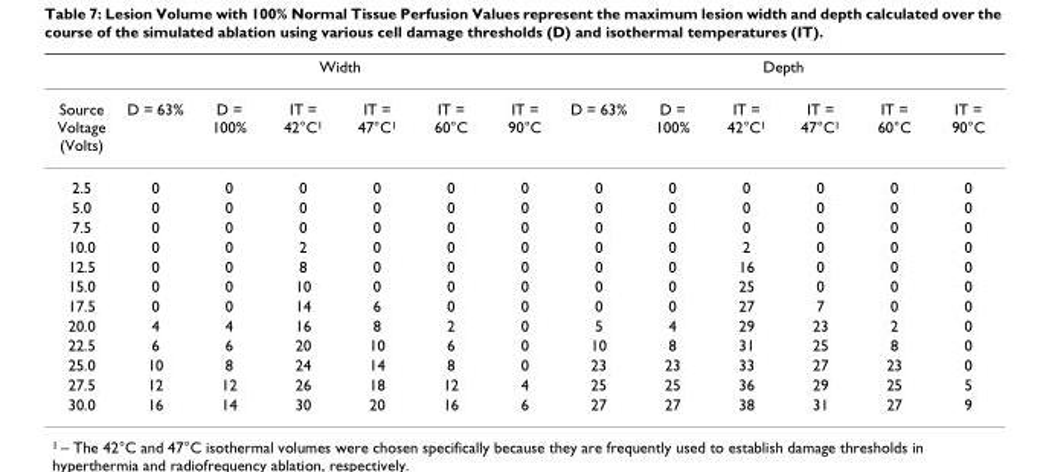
<table><thead><tr><td rowspan="2">Source Voltage (Volts)</td><td colspan="6">Width</td><td colspan="6">Depth</td></tr><tr><td>D = 63%</td><td>D = 100%</td><td>IT = 42°C<sup>1</sup></td><td>IT = 47°C<sup>1</sup></td><td>IT = 60°C</td><td>IT = 90°C</td><td>D = 63%</td><td>D = 100%</td><td>IT = 42°C<sup>1</sup></td><td>IT = 47°C<sup>1</sup></td><td>IT = 60°C</td><td>IT = 90°C</td></tr></thead><tbody><tr><td>2.5</td><td>0</td><td>0</td><td>0</td><td>0</td><td>0</td><td>0</td><td>0</td><td>0</td><td>0</td><td>0</td><td>0</td><td>0</td></tr><tr><td>5.0</td><td>0</td><td>0</td><td>0</td><td>0</td><td>0</td><td>0</td><td>0</td><td>0</td><td>0</td><td>0</td><td>0</td><td>0</td></tr><tr><td>7.5</td><td>0</td><td>0</td><td>0</td><td>0</td><td>0</td><td>0</td><td>0</td><td>0</td><td>0</td><td>0</td><td>0</td><td>0</td></tr><tr><td>10.0</td><td>0</td><td>0</td><td>2</td><td>0</td><td>0</td><td>0</td><td>0</td><td>0</td><td>2</td><td>0</td><td>0</td><td>0</td></tr><tr><td>12.5</td><td>0</td><td>0</td><td>8</td><td>0</td><td>0</td><td>0</td><td>0</td><td>0</td><td>16</td><td>0</td><td>0</td><td>0</td></tr><tr><td>15.0</td><td>0</td><td>0</td><td>10</td><td>0</td><td>0</td><td>0</td><td>0</td><td>0</td><td>25</td><td>0</td><td>0</td><td>0</td></tr><tr><td>17.5</td><td>0</td><td>0</td><td>14</td><td>6</td><td>0</td><td>0</td><td>0</td><td>0</td><td>27</td><td>7</td><td>0</td><td>0</td></tr><tr><td>20.0</td><td>4</td><td>4</td><td>16</td><td>8</td><td>2</td><td>0</td><td>5</td><td>4</td><td>29</td><td>23</td><td>2</td><td>0</td></tr><tr><td>22.5</td><td>6</td><td>6</td><td>20</td><td>10</td><td>6</td><td>0</td><td>10</td><td>8</td><td>31</td><td>25</td><td>8</td><td>0</td></tr><tr><td>25.0</td><td>10</td><td>8</td><td>24</td><td>14</td><td>8</td><td>0</td><td>23</td><td>23</td><td>33</td><td>27</td><td>23</td><td>0</td></tr><tr><td>27.5</td><td>12</td><td>12</td><td>26</td><td>18</td><td>12</td><td>4</td><td>25</td><td>25</td><td>36</td><td>29</td><td>25</td><td>5</td></tr><tr><td>30.0</td><td>16</td><td>14</td><td>30</td><td>20</td><td>16</td><td>6</td><td>27</td><td>27</td><td>38</td><td>31</td><td>27</td><td>9</td></tr></tbody></table>